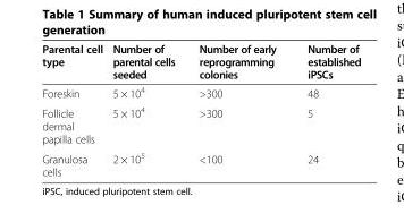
<table><thead><tr><td>Parental cell type</td><td>Number of parental cells seeded</td><td>Number of early reprogramming colonies</td><td>Number of established iPSCs</td></tr></thead><tbody><tr><td>Foreskin</td><td>5 × 10<sup>4</sup></td><td>&gt;300</td><td>48</td></tr><tr><td>Follicle dermal papilla cells</td><td>5 × 10<sup>4</sup></td><td>&gt;300</td><td>5</td></tr><tr><td>Granulosa cells</td><td>2 × 10<sup>5</sup></td><td>&lt;100</td><td>24</td></tr></tbody></table>